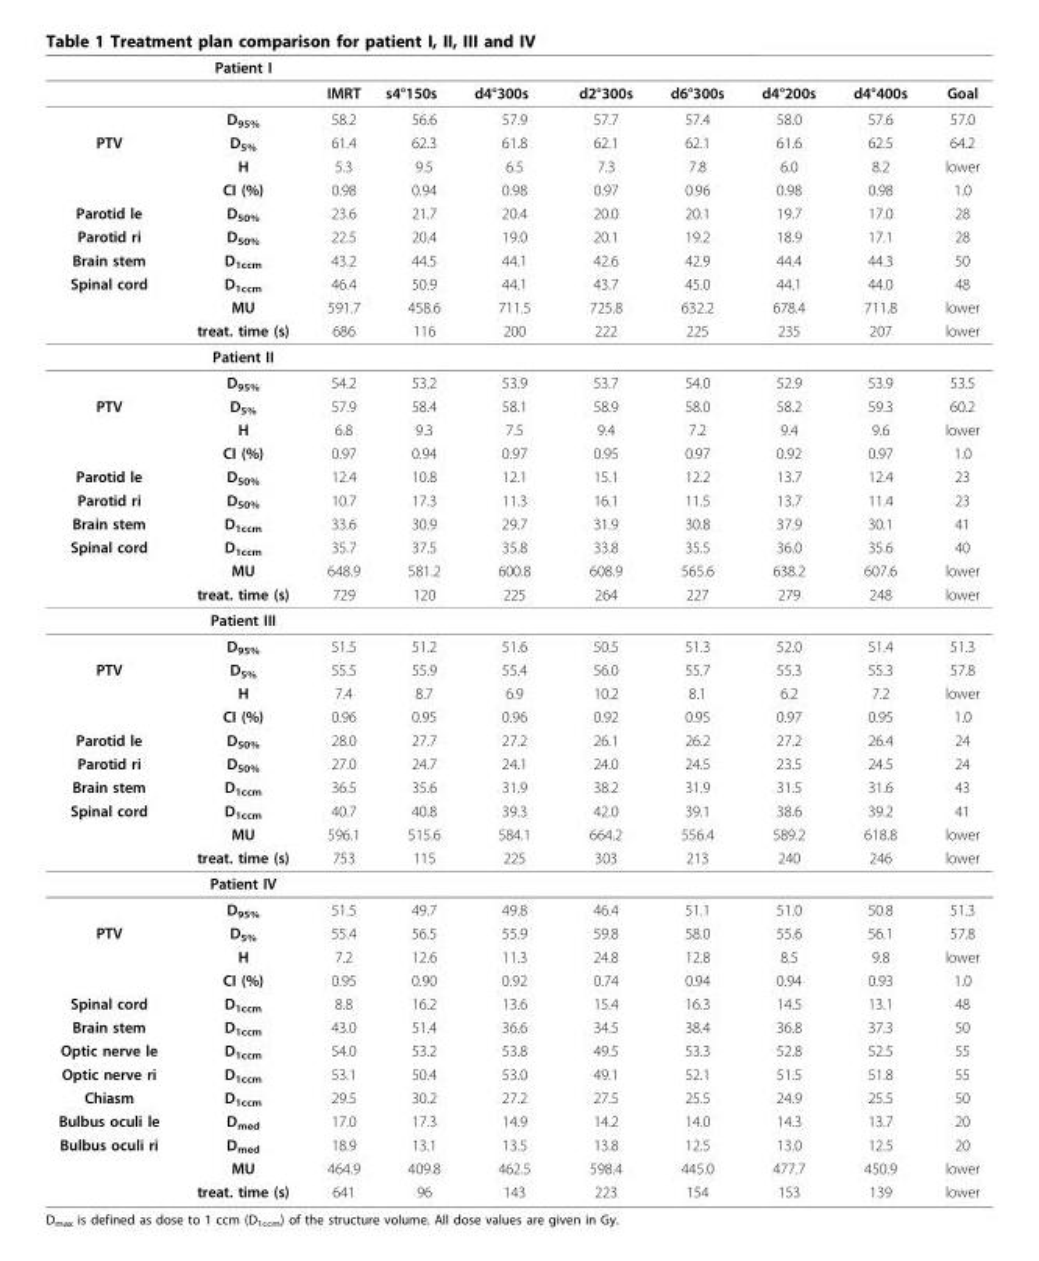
<table><thead><tr><td></td><td>Patient I</td><td></td><td></td><td></td><td></td><td></td><td></td><td></td><td></td></tr></thead><tbody><tr><td></td><td></td><td>IMRT</td><td>s4°150s</td><td>d4°300s</td><td>d2°300s</td><td>d6°300s</td><td>d4°200s</td><td>d4°400s</td><td>Goal</td></tr><tr><td></td><td>D<sub>95%</sub></td><td>58.2</td><td>56.6</td><td>57.9</td><td>57.7</td><td>57.4</td><td>58.0</td><td>57.6</td><td>57.0</td></tr><tr><td rowspan="3">PTV</td><td>D<sub>5%</sub></td><td>61.4</td><td>62.3</td><td>61.8</td><td>62.1</td><td>62.1</td><td>61.6</td><td>62.5</td><td>64.2</td></tr><tr><td>H</td><td>5.3</td><td>9.5</td><td>6.5</td><td>7.3</td><td>7.8</td><td>6.0</td><td>8.2</td><td>lower</td></tr><tr><td>CI (%)</td><td>0.98</td><td>0.94</td><td>0.98</td><td>0.97</td><td>0.96</td><td>0.98</td><td>0.98</td><td>1.0</td></tr><tr><td>Parotid le</td><td>D<sub>50%</sub></td><td>23.6</td><td>21.7</td><td>20.4</td><td>20.0</td><td>20.1</td><td>19.7</td><td>17.0</td><td>28</td></tr><tr><td>Parotid ri</td><td>D<sub>50%</sub></td><td>22.5</td><td>20.4</td><td>19.0</td><td>20.1</td><td>19.2</td><td>18.9</td><td>17.1</td><td>28</td></tr><tr><td>Brain stem</td><td>D<sub>1ccm</sub></td><td>43.2</td><td>44.5</td><td>44.1</td><td>42.6</td><td>42.9</td><td>44.4</td><td>44.3</td><td>50</td></tr><tr><td rowspan="5">Spinal cord</td><td>D<sub>1ccm</sub></td><td>46.4</td><td>50.9</td><td>44.1</td><td>43.7</td><td>45.0</td><td>44.1</td><td>44.0</td><td>48</td></tr><tr><td>MU</td><td>591.7</td><td>458.6</td><td>711.5</td><td>725.8</td><td>632.2</td><td>678.4</td><td>711.8</td><td>lower</td></tr><tr><td>treat. time (s)</td><td>686</td><td>116</td><td>200</td><td>222</td><td>225</td><td>235</td><td>207</td><td>lower</td></tr><tr><td>Patient II</td><td></td><td></td><td></td><td></td><td></td><td></td><td></td><td></td></tr><tr><td>D<sub>95%</sub></td><td>54.2</td><td>53.2</td><td>53.9</td><td>53.7</td><td>54.0</td><td>52.9</td><td>53.9</td><td>53.5</td></tr><tr><td rowspan="3">PTV</td><td>D<sub>5%</sub></td><td>57.9</td><td>58.4</td><td>58.1</td><td>58.9</td><td>58.0</td><td>58.2</td><td>59.3</td><td>60.2</td></tr><tr><td>H</td><td>6.8</td><td>9.3</td><td>7.5</td><td>9.4</td><td>7.2</td><td>9.4</td><td>9.6</td><td>lower</td></tr><tr><td>CI (%)</td><td>0.97</td><td>0.94</td><td>0.97</td><td>0.95</td><td>0.97</td><td>0.92</td><td>0.97</td><td>1.0</td></tr><tr><td>Parotid le</td><td>D<sub>50%</sub></td><td>12.4</td><td>10.8</td><td>12.1</td><td>15.1</td><td>12.2</td><td>13.7</td><td>12.4</td><td>23</td></tr><tr><td>Parotid ri</td><td>D<sub>50%</sub></td><td>10.7</td><td>17.3</td><td>11.3</td><td>16.1</td><td>11.5</td><td>13.7</td><td>11.4</td><td>23</td></tr><tr><td>Brain stem</td><td>D<sub>1ccm</sub></td><td>33.6</td><td>30.9</td><td>29.7</td><td>31.9</td><td>30.8</td><td>37.9</td><td>30.1</td><td>41</td></tr><tr><td rowspan="5">Spinal cord</td><td>D<sub>1ccm</sub></td><td>35.7</td><td>37.5</td><td>35.8</td><td>33.8</td><td>35.5</td><td>36.0</td><td>35.6</td><td>40</td></tr><tr><td>MU</td><td>648.9</td><td>581.2</td><td>600.8</td><td>608.9</td><td>565.6</td><td>638.2</td><td>607.6</td><td>lower</td></tr><tr><td>treat. time (s)</td><td>729</td><td>120</td><td>225</td><td>264</td><td>227</td><td>279</td><td>248</td><td>lower</td></tr><tr><td>Patient III</td><td></td><td></td><td></td><td></td><td></td><td></td><td></td><td></td></tr><tr><td>D<sub>95%</sub></td><td>51.5</td><td>51.2</td><td>51.6</td><td>50.5</td><td>51.3</td><td>52.0</td><td>51.4</td><td>51.3</td></tr><tr><td rowspan="3">PTV</td><td>D<sub>5%</sub></td><td>55.5</td><td>55.9</td><td>55.4</td><td>56.0</td><td>55.7</td><td>55.3</td><td>55.3</td><td>57.8</td></tr><tr><td>H</td><td>7.4</td><td>8.7</td><td>6.9</td><td>10.2</td><td>8.1</td><td>6.2</td><td>7.2</td><td>lower</td></tr><tr><td>CI (%)</td><td>0.96</td><td>0.95</td><td>0.96</td><td>0.92</td><td>0.95</td><td>0.97</td><td>0.95</td><td>1.0</td></tr><tr><td>Parotid le</td><td>D<sub>50%</sub></td><td>28.0</td><td>27.7</td><td>27.2</td><td>26.1</td><td>26.2</td><td>27.2</td><td>26.4</td><td>24</td></tr><tr><td>Parotid ri</td><td>D<sub>50%</sub></td><td>27.0</td><td>24.7</td><td>24.1</td><td>24.0</td><td>24.5</td><td>23.5</td><td>24.5</td><td>24</td></tr><tr><td>Brain stem</td><td>D<sub>1ccm</sub></td><td>36.5</td><td>35.6</td><td>31.9</td><td>38.2</td><td>31.9</td><td>31.5</td><td>31.6</td><td>43</td></tr><tr><td rowspan="5">Spinal cord</td><td>D<sub>1ccm</sub></td><td>40.7</td><td>40.8</td><td>39.3</td><td>42.0</td><td>39.1</td><td>38.6</td><td>39.2</td><td>41</td></tr><tr><td>MU</td><td>596.1</td><td>515.6</td><td>584.1</td><td>664.2</td><td>556.4</td><td>589.2</td><td>618.8</td><td>lower</td></tr><tr><td>treat. time (s)</td><td>753</td><td>115</td><td>225</td><td>303</td><td>213</td><td>240</td><td>246</td><td>lower</td></tr><tr><td>Patient IV</td><td></td><td></td><td></td><td></td><td></td><td></td><td></td><td></td></tr><tr><td>D<sub>95%</sub></td><td>51.5</td><td>49.7</td><td>49.8</td><td>46.4</td><td>51.1</td><td>51.0</td><td>50.8</td><td>51.3</td></tr><tr><td rowspan="3">PTV</td><td>D<sub>5%</sub></td><td>55.4</td><td>56.5</td><td>55.9</td><td>59.8</td><td>58.0</td><td>55.6</td><td>56.1</td><td>57.8</td></tr><tr><td>H</td><td>7.2</td><td>12.6</td><td>11.3</td><td>24.8</td><td>12.8</td><td>8.5</td><td>9.8</td><td>lower</td></tr><tr><td>CI (%)</td><td>0.95</td><td>0.90</td><td>0.92</td><td>0.74</td><td>0.94</td><td>0.94</td><td>0.93</td><td>1.0</td></tr><tr><td>Spinal cord</td><td>D<sub>1ccm</sub></td><td>8.8</td><td>16.2</td><td>13.6</td><td>15.4</td><td>16.3</td><td>14.5</td><td>13.1</td><td>48</td></tr><tr><td>Brain stem</td><td>D<sub>1ccm</sub></td><td>43.0</td><td>51.4</td><td>36.6</td><td>34.5</td><td>38.4</td><td>36.8</td><td>37.3</td><td>50</td></tr><tr><td>Optic nerve le</td><td>D<sub>1ccm</sub></td><td>54.0</td><td>53.2</td><td>53.8</td><td>49.5</td><td>53.3</td><td>52.8</td><td>52.5</td><td>55</td></tr><tr><td>Optic nerve ri</td><td>D<sub>1ccm</sub></td><td>53.1</td><td>50.4</td><td>53.0</td><td>49.1</td><td>52.1</td><td>51.5</td><td>51.8</td><td>55</td></tr><tr><td>Chiasm</td><td>D<sub>1ccm</sub></td><td>29.5</td><td>30.2</td><td>27.2</td><td>27.5</td><td>25.5</td><td>24.9</td><td>25.5</td><td>50</td></tr><tr><td>Bulbus oculi le</td><td>D<sub>med</sub></td><td>17.0</td><td>17.3</td><td>14.9</td><td>14.2</td><td>14.0</td><td>14.3</td><td>13.7</td><td>20</td></tr><tr><td rowspan="3">Bulbus oculi ri</td><td>D<sub>med</sub></td><td>18.9</td><td>13.1</td><td>13.5</td><td>13.8</td><td>12.5</td><td>13.0</td><td>12.5</td><td>20</td></tr><tr><td>MU</td><td>464.9</td><td>409.8</td><td>462.5</td><td>598.4</td><td>445.0</td><td>477.7</td><td>450.9</td><td>lower</td></tr><tr><td>treat. time (s)</td><td>641</td><td>96</td><td>143</td><td>223</td><td>154</td><td>153</td><td>139</td><td>lower</td></tr></tbody></table>